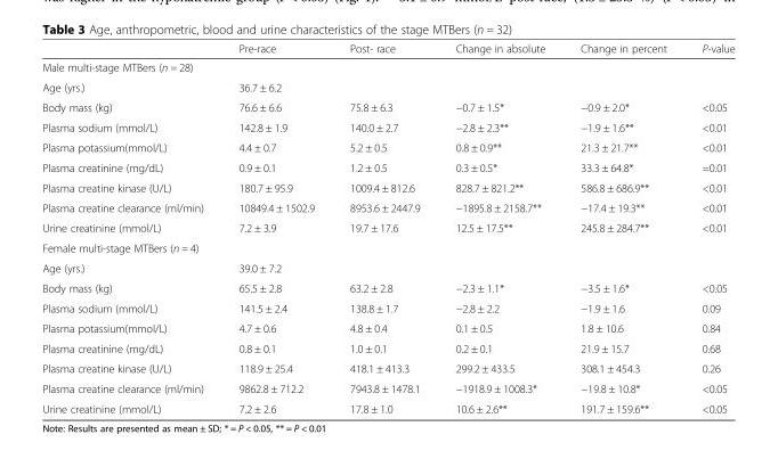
<table><thead><tr><td></td><td>Pre-race</td><td>Post- race</td><td>Change in absolute</td><td>Change in percent</td><td>P-value</td></tr></thead><tbody><tr><td colspan="6">Male multi-stage MTBers (n = 28)</td></tr><tr><td>Age (yrs.)</td><td>36.7 ± 6.2</td><td></td><td></td><td></td><td></td></tr><tr><td>Body mass (kg)</td><td>76.6 ± 6.6</td><td>75.8 ± 6.3</td><td>−0.7 ± 1.5*</td><td>−0.9 ± 2.0*</td><td>&lt;0.05</td></tr><tr><td>Plasma sodium (mmol/L)</td><td>142.8 ± 1.9</td><td>140.0 ± 2.7</td><td>−2.8 ± 2.3**</td><td>−1.9 ± 1.6**</td><td>&lt;0.01</td></tr><tr><td>Plasma potassium(mmol/L)</td><td>4.4 ± 0.7</td><td>5.2 ± 0.5</td><td>0.8 ± 0.9**</td><td>21.3 ± 21.7**</td><td>&lt;0.01</td></tr><tr><td>Plasma creatinine (mg/dL)</td><td>0.9 ± 0.1</td><td>1.2 ± 0.5</td><td>0.3 ± 0.5*</td><td>33.3 ± 64.8*</td><td>=0.01</td></tr><tr><td>Plasma creatine kinase (U/L)</td><td>180.7 ± 95.9</td><td>1009.4 ± 812.6</td><td>828.7 ± 821.2**</td><td>586.8 ± 686.9**</td><td>&lt;0.01</td></tr><tr><td>Plasma creatine clearance (ml/min)</td><td>10849.4 ± 1502.9</td><td>8953.6 ± 2447.9</td><td>−1895.8 ± 2158.7**</td><td>−17.4 ± 19.3**</td><td>&lt;0.01</td></tr><tr><td>Urine creatinine (mmol/L)</td><td>7.2 ± 3.9</td><td>19.7 ± 17.6</td><td>12.5 ± 17.5**</td><td>245.8 ± 284.7**</td><td>&lt;0.01</td></tr><tr><td colspan="6">Female multi-stage MTBers (n = 4)</td></tr><tr><td>Age (yrs.)</td><td>39.0 ± 7.2</td><td></td><td></td><td></td><td></td></tr><tr><td>Body mass (kg)</td><td>65.5 ± 2.8</td><td>63.2 ± 2.8</td><td>−2.3 ± 1.1*</td><td>−3.5 ± 1.6*</td><td>&lt;0.05</td></tr><tr><td>Plasma sodium (mmol/L)</td><td>141.5 ± 2.4</td><td>138.8 ± 1.7</td><td>−2.8 ± 2.2</td><td>−1.9 ± 1.6</td><td>0.09</td></tr><tr><td>Plasma potassium(mmol/L)</td><td>4.7 ± 0.6</td><td>4.8 ± 0.4</td><td>0.1 ± 0.5</td><td>1.8 ± 10.6</td><td>0.84</td></tr><tr><td>Plasma creatinine (mg/dL)</td><td>0.8 ± 0.1</td><td>1.0 ± 0.1</td><td>0.2 ± 0.1</td><td>21.9 ± 15.7</td><td>0.68</td></tr><tr><td>Plasma creatine kinase (U/L)</td><td>118.9 ± 25.4</td><td>418.1 ± 413.3</td><td>299.2 ± 433.5</td><td>308.1 ± 454.3</td><td>0.26</td></tr><tr><td>Plasma creatine clearance (ml/min)</td><td>9862.8 ± 712.2</td><td>7943.8 ± 1478.1</td><td>−1918.9 ± 1008.3*</td><td>−19.8 ± 10.8*</td><td>&lt;0.05</td></tr><tr><td>Urine creatinine (mmol/L)</td><td>7.2 ± 2.6</td><td>17.8 ± 1.0</td><td>10.6 ± 2.6**</td><td>191.7 ± 159.6**</td><td>&lt;0.05</td></tr></tbody></table>